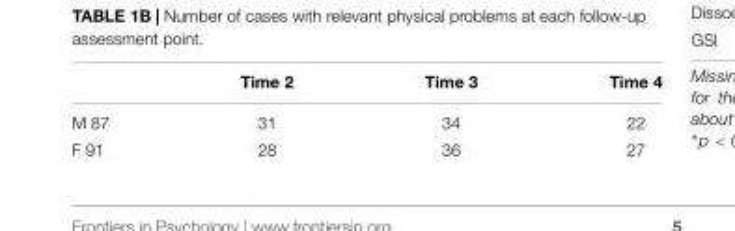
<table><thead><tr><td></td><td>Time 2</td><td>Time 3</td><td>Time 4</td></tr></thead><tbody><tr><td>M 87</td><td>31</td><td>34</td><td>22</td></tr><tr><td>F 91</td><td>28</td><td>36</td><td>27</td></tr></tbody></table>